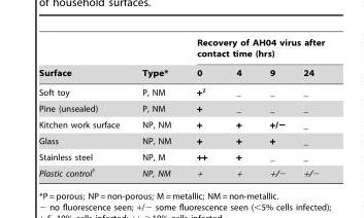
<table><thead><tr><td rowspan="2">Surface</td><td rowspan="2">Type*</td><td colspan="4">Recovery of AH04 virus after contact time (hrs)</td></tr><tr><td>0</td><td>4</td><td>9</td><td>24</td></tr></thead><tbody><tr><td>Soft toy</td><td>P, NM</td><td>+<sup>χ</sup></td><td>_</td><td>_</td><td>_</td></tr><tr><td>Pine (unsealed)</td><td>P, NM</td><td>+</td><td>_</td><td>_</td><td>_</td></tr><tr><td>Kitchen work surface</td><td>NP, NM</td><td>+</td><td>+</td><td>+/−</td><td>_</td></tr><tr><td>Glass</td><td>NP, NM</td><td>+</td><td>+</td><td>+</td><td>_</td></tr><tr><td>Stainless steel</td><td>NP, M</td><td>++</td><td>+</td><td>_</td><td>_</td></tr><tr><td>Plastic control†</td><td>NP, NM</td><td>+</td><td>+</td><td>+/−</td><td>+/−</td></tr></tbody></table>